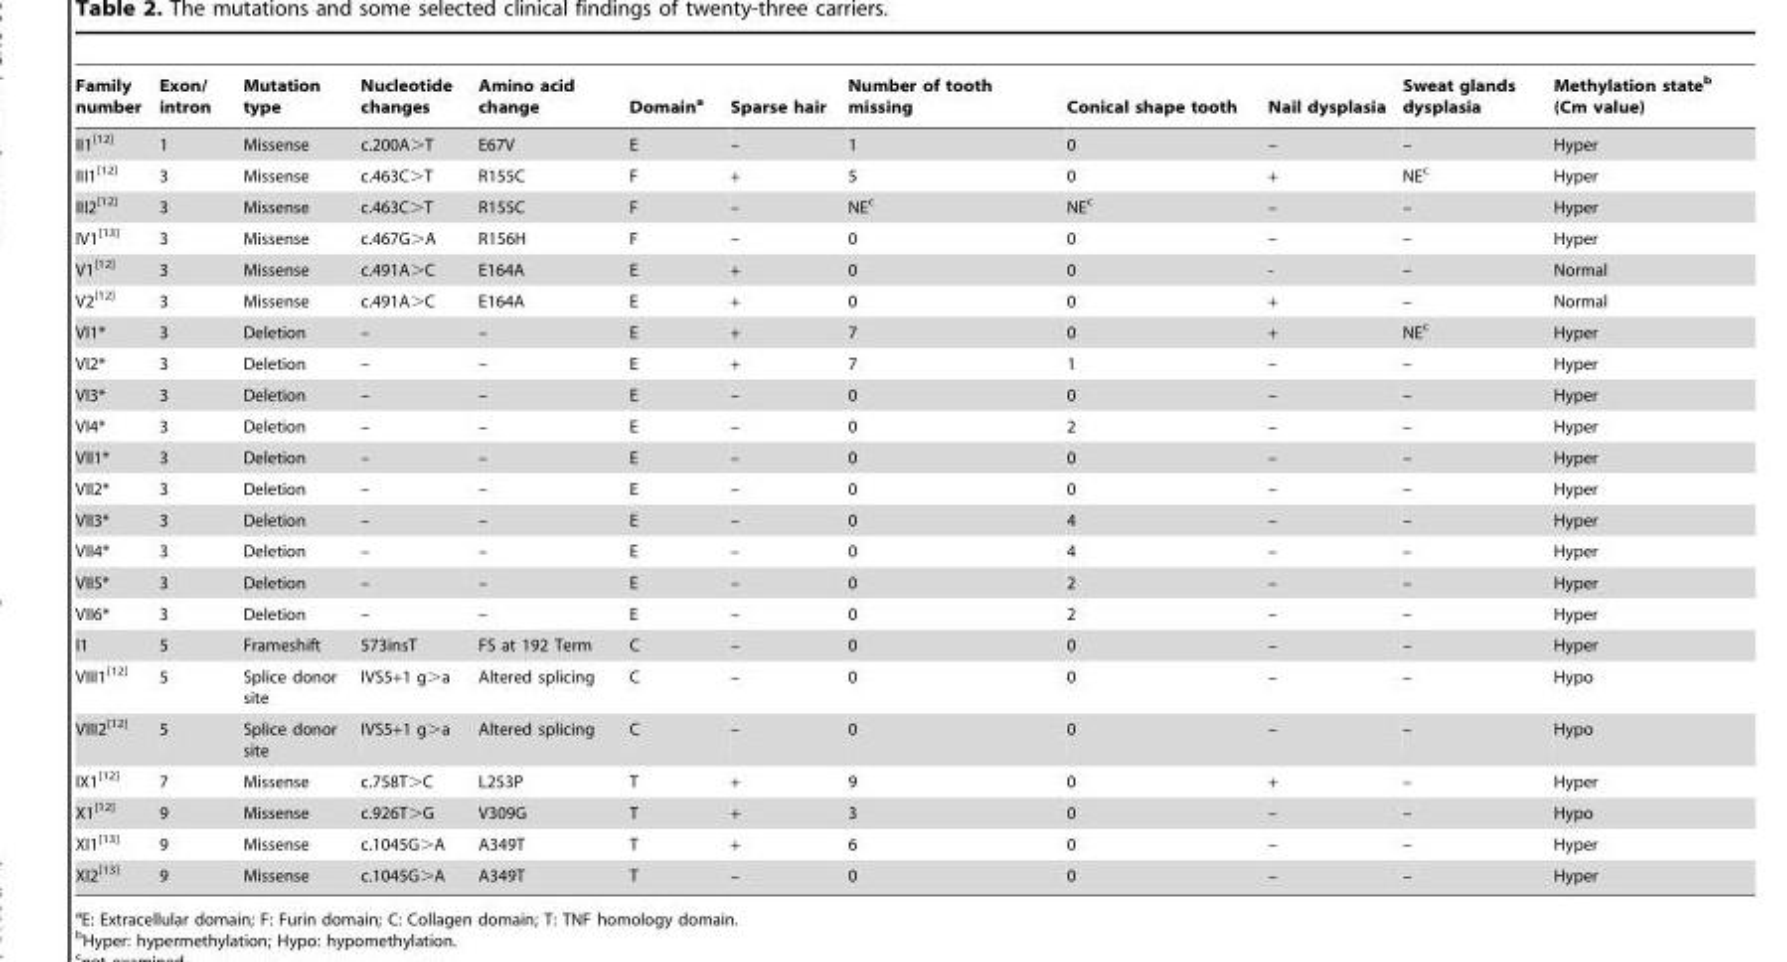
<table><thead><tr><td>Family number</td><td>Exon/ intron</td><td>Mutation type</td><td>Nucleotide changes</td><td>Amino acid change</td><td>Domain<sup>a</sup></td><td>Sparse hair</td><td>Number of tooth missing</td><td>Conical shape tooth</td><td>Nail dysplasia</td><td>Sweat glands dysplasia</td><td>Methylation state<sup>b</sup> (Cm value)</td></tr></thead><tbody><tr><td>II1<sup>[12]</sup></td><td>1</td><td>Missense</td><td>c.200A&gt;T</td><td>E67V</td><td>E</td><td>–</td><td>1</td><td>0</td><td>–</td><td>–</td><td>Hyper</td></tr><tr><td>III1<sup>[12]</sup></td><td>3</td><td>Missense</td><td>c.463C&gt;T</td><td>R155C</td><td>F</td><td>+</td><td>5</td><td>0</td><td>+</td><td>NE<sup>c</sup></td><td>Hyper</td></tr><tr><td>III2<sup>[12]</sup></td><td>3</td><td>Missense</td><td>c.463C&gt;T</td><td>R155C</td><td>F</td><td>–</td><td>NE<sup>c</sup></td><td>NE<sup>c</sup></td><td>–</td><td>–</td><td>Hyper</td></tr><tr><td>IV1<sup>[13]</sup></td><td>3</td><td>Missense</td><td>c.467G&gt;A</td><td>R156H</td><td>F</td><td>–</td><td>0</td><td>0</td><td>–</td><td>–</td><td>Hyper</td></tr><tr><td>V1<sup>[12]</sup></td><td>3</td><td>Missense</td><td>c.491A&gt;C</td><td>E164A</td><td>E</td><td>+</td><td>0</td><td>0</td><td>-</td><td>–</td><td>Normal</td></tr><tr><td>V2<sup>[12]</sup></td><td>3</td><td>Missense</td><td>c.491A&gt;C</td><td>E164A</td><td>E</td><td>+</td><td>0</td><td>0</td><td>+</td><td>–</td><td>Normal</td></tr><tr><td>VI1*</td><td>3</td><td>Deletion</td><td>–</td><td>–</td><td>E</td><td>+</td><td>7</td><td>0</td><td>+</td><td>NE<sup>c</sup></td><td>Hyper</td></tr><tr><td>VI2*</td><td>3</td><td>Deletion</td><td>–</td><td>–</td><td>E</td><td>+</td><td>7</td><td>1</td><td>–</td><td>–</td><td>Hyper</td></tr><tr><td>VI3*</td><td>3</td><td>Deletion</td><td>–</td><td>–</td><td>E</td><td>–</td><td>0</td><td>0</td><td>–</td><td>–</td><td>Hyper</td></tr><tr><td>VI4*</td><td>3</td><td>Deletion</td><td>–</td><td>–</td><td>E</td><td>–</td><td>0</td><td>2</td><td>–</td><td>–</td><td>Hyper</td></tr><tr><td>VII1*</td><td>3</td><td>Deletion</td><td>–</td><td>–</td><td>E</td><td>–</td><td>0</td><td>0</td><td>–</td><td>–</td><td>Hyper</td></tr><tr><td>VII2*</td><td>3</td><td>Deletion</td><td>–</td><td>–</td><td>E</td><td>–</td><td>0</td><td>0</td><td>–</td><td>–</td><td>Hyper</td></tr><tr><td>VII3*</td><td>3</td><td>Deletion</td><td>–</td><td>–</td><td>E</td><td>–</td><td>0</td><td>4</td><td>–</td><td>–</td><td>Hyper</td></tr><tr><td>VII4*</td><td>3</td><td>Deletion</td><td>–</td><td>–</td><td>E</td><td>–</td><td>0</td><td>4</td><td>–</td><td>–</td><td>Hyper</td></tr><tr><td>VII5*</td><td>3</td><td>Deletion</td><td>–</td><td>–</td><td>E</td><td>–</td><td>0</td><td>2</td><td>–</td><td>–</td><td>Hyper</td></tr><tr><td>VII6*</td><td>3</td><td>Deletion</td><td>–</td><td>–</td><td>E</td><td>–</td><td>0</td><td>2</td><td>–</td><td>–</td><td>Hyper</td></tr><tr><td>I1</td><td>5</td><td>Frameshift</td><td>573insT</td><td>FS at 192 Term</td><td>C</td><td>–</td><td>0</td><td>0</td><td>–</td><td>–</td><td>Hyper</td></tr><tr><td>VIII1<sup>[12]</sup></td><td>5</td><td>Splice donor site</td><td>IVS5+1 g&gt;a</td><td>Altered splicing</td><td>C</td><td>–</td><td>0</td><td>0</td><td>–</td><td>–</td><td>Hypo</td></tr><tr><td>VIII2<sup>[12]</sup></td><td>5</td><td>Splice donor site</td><td>IVS5+1 g&gt;a</td><td>Altered splicing</td><td>C</td><td>–</td><td>0</td><td>0</td><td>–</td><td>–</td><td>Hypo</td></tr><tr><td>IX1<sup>[12]</sup></td><td>7</td><td>Missense</td><td>c.758T&gt;C</td><td>L253P</td><td>T</td><td>+</td><td>9</td><td>0</td><td>+</td><td>–</td><td>Hyper</td></tr><tr><td>X1<sup>[12]</sup></td><td>9</td><td>Missense</td><td>c.926T&gt;G</td><td>V309G</td><td>T</td><td>+</td><td>3</td><td>0</td><td>–</td><td>–</td><td>Hypo</td></tr><tr><td>XI1<sup>[13]</sup></td><td>9</td><td>Missense</td><td>c.1045G&gt;A</td><td>A349T</td><td>T</td><td>+</td><td>6</td><td>0</td><td>–</td><td>–</td><td>Hyper</td></tr><tr><td>XI2<sup>[13]</sup></td><td>9</td><td>Missense</td><td>c.1045G&gt;A</td><td>A349T</td><td>T</td><td>–</td><td>0</td><td>0</td><td>–</td><td>–</td><td>Hyper</td></tr></tbody></table>